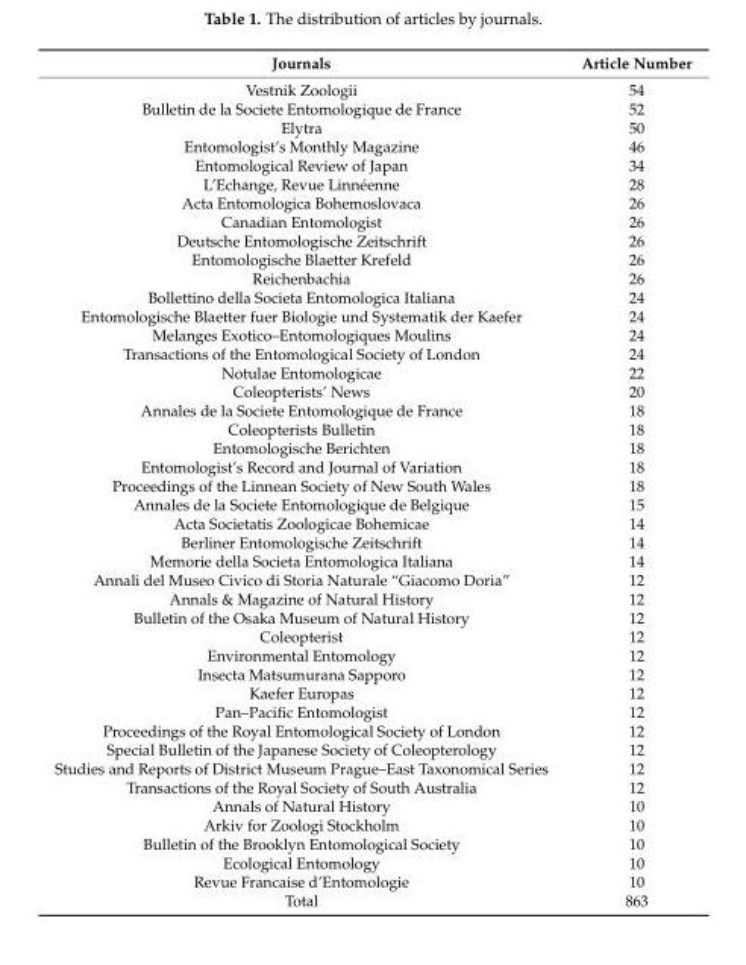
<table><thead><tr><td>Journals</td><td>Article Number</td></tr></thead><tbody><tr><td>Vestnik Zoologii</td><td>54</td></tr><tr><td>Bulletin de la Societe Entomologique de France</td><td>52</td></tr><tr><td>Elytra</td><td>50</td></tr><tr><td>Entomologist’s Monthly Magazine</td><td>46</td></tr><tr><td>Entomological Review of Japan</td><td>34</td></tr><tr><td>L’Echange, Revue Linnéenne</td><td>28</td></tr><tr><td>Acta Entomologica Bohemoslovaca</td><td>26</td></tr><tr><td>Canadian Entomologist</td><td>26</td></tr><tr><td>Deutsche Entomologische Zeitschrift</td><td>26</td></tr><tr><td>Entomologische Blaetter Krefeld</td><td>26</td></tr><tr><td>Reichenbachia</td><td>26</td></tr><tr><td>Bollettino della Societa Entomologica Italiana</td><td>24</td></tr><tr><td>Entomologische Blaetter fuer Biologie und Systematik der Kaefer</td><td>24</td></tr><tr><td>Melanges Exotico–Entomologiques Moulins</td><td>24</td></tr><tr><td>Transactions of the Entomological Society of London</td><td>24</td></tr><tr><td>Notulae Entomologicae</td><td>22</td></tr><tr><td>Coleopterists’ News</td><td>20</td></tr><tr><td>Annales de la Societe Entomologique de France</td><td>18</td></tr><tr><td>Coleopterists Bulletin</td><td>18</td></tr><tr><td>Entomologische Berichten</td><td>18</td></tr><tr><td>Entomologist’s Record and Journal of Variation</td><td>18</td></tr><tr><td>Proceedings of the Linnean Society of New South Wales</td><td>18</td></tr><tr><td>Annales de la Societe Entomologique de Belgique</td><td>15</td></tr><tr><td>Acta Societatis Zoologicae Bohemicae</td><td>14</td></tr><tr><td>Berliner Entomologische Zeitschrift</td><td>14</td></tr><tr><td>Memorie della Societa Entomologica Italiana</td><td>14</td></tr><tr><td>Annali del Museo Civico di Storia Naturale “Giacomo Doria”</td><td>12</td></tr><tr><td>Annals &amp; Magazine of Natural History</td><td>12</td></tr><tr><td>Bulletin of the Osaka Museum of Natural History</td><td>12</td></tr><tr><td>Coleopterist</td><td>12</td></tr><tr><td>Environmental Entomology</td><td>12</td></tr><tr><td>Insecta Matsumurana Sapporo</td><td>12</td></tr><tr><td>Kaefer Europas</td><td>12</td></tr><tr><td>Pan–Pacific Entomologist</td><td>12</td></tr><tr><td>Proceedings of the Royal Entomological Society of London</td><td>12</td></tr><tr><td>Special Bulletin of the Japanese Society of Coleopterology</td><td>12</td></tr><tr><td>Studies and Reports of District Museum Prague–East Taxonomical Series</td><td>12</td></tr><tr><td>Transactions of the Royal Society of South Australia</td><td>12</td></tr><tr><td>Annals of Natural History</td><td>10</td></tr><tr><td>Arkiv for Zoologi Stockholm</td><td>10</td></tr><tr><td>Bulletin of the Brooklyn Entomological Society</td><td>10</td></tr><tr><td>Ecological Entomology</td><td>10</td></tr><tr><td>Revue Francaise d’Entomologie</td><td>10</td></tr><tr><td>Total</td><td>863</td></tr></tbody></table>